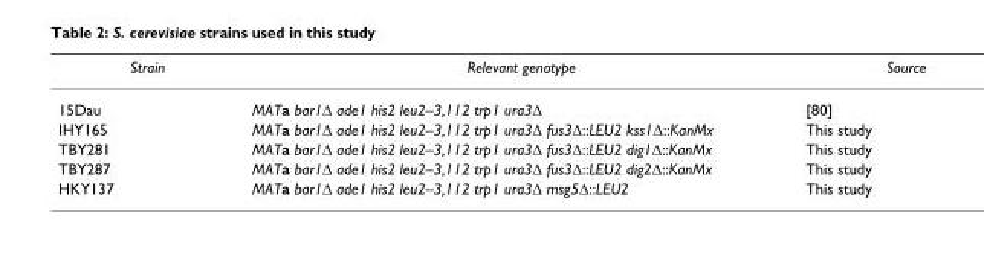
<table><thead><tr><td>Strain</td><td>Relevant genotype</td><td>Source</td></tr></thead><tbody><tr><td>15Dau</td><td>MATa bar1Δ ade1 his2 leu2–3,112 trp1 ura3Δ</td><td>[80]</td></tr><tr><td>IHY165</td><td>MATa bar1Δ ade1 his2 leu2–3,112 trp1 ura3Δ fus3Δ::LEU2 kss1Δ::KanMx</td><td>This study</td></tr><tr><td>TBY281</td><td>MATa bar1Δ ade1 his2 leu2–3,112 trp1 ura3Δ fus3Δ::LEU2 dig1Δ::KanMx</td><td>This study</td></tr><tr><td>TBY287</td><td>MATa bar1Δ ade1 his2 leu2–3,112 trp1 ura3Δ fus3Δ::LEU2 dig2Δ::KanMx</td><td>This study</td></tr><tr><td>HKY137</td><td>MATa bar1Δ ade1 his2 leu2–3,112 trp1 ura3Δ msg5Δ::LEU2</td><td>This study</td></tr></tbody></table>